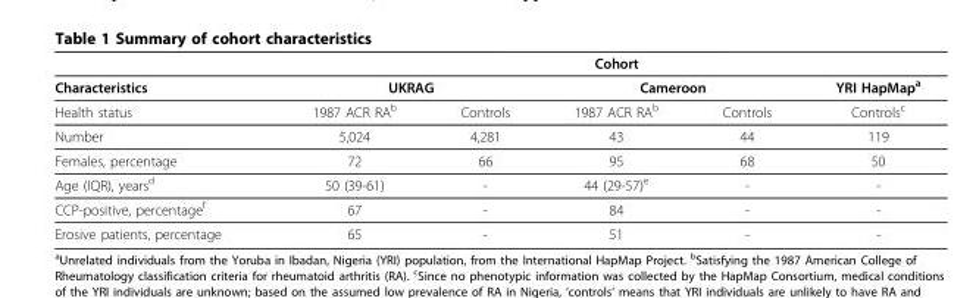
<table><thead><tr><td rowspan="3">Characteristics Health status</td><td colspan="5">Cohort</td></tr><tr><td colspan="2">UKRAG</td><td colspan="2">Cameroon</td><td rowspan="2">YRI HapMapa Controlsc</td></tr><tr><td>1987 ACR RAb</td><td>Controls</td><td>1987 ACR RAb</td><td>Controls</td></tr></thead><tbody><tr><td>Number</td><td>5,024</td><td>4,281</td><td>43</td><td>44</td><td>119</td></tr><tr><td>Females, percentage</td><td>72</td><td>66</td><td>95</td><td>68</td><td>50</td></tr><tr><td>Age (IQR), years<sup>d</sup></td><td>50 (39-61)</td><td>-</td><td>44 (29-57)<sup>e</sup></td><td>-</td><td>-</td></tr><tr><td>CCP-positive, percentage<sup>f</sup></td><td>67</td><td>-</td><td>84</td><td>-</td><td>-</td></tr><tr><td>Erosive patients, percentage</td><td>65</td><td>-</td><td>51</td><td>-</td><td>-</td></tr></tbody></table>